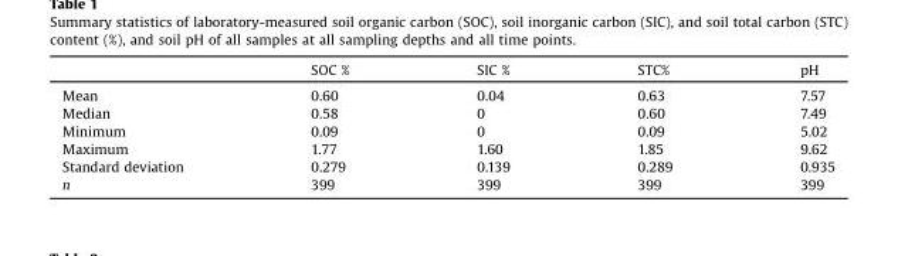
<table><thead><tr><td></td><td>SOC %</td><td>SIC %</td><td>STC%</td><td>pH</td></tr></thead><tbody><tr><td>Mean</td><td>0.60</td><td>0.04</td><td>0.63</td><td>7.57</td></tr><tr><td>Median</td><td>0.58</td><td>0</td><td>0.60</td><td>7.49</td></tr><tr><td>Minimum</td><td>0.09</td><td>0</td><td>0.09</td><td>5.02</td></tr><tr><td>Maximum</td><td>1.77</td><td>1.60</td><td>1.85</td><td>9.62</td></tr><tr><td>Standard deviation</td><td>0.279</td><td>0.139</td><td>0.289</td><td>0.935</td></tr><tr><td>n</td><td>399</td><td>399</td><td>399</td><td>399</td></tr></tbody></table>